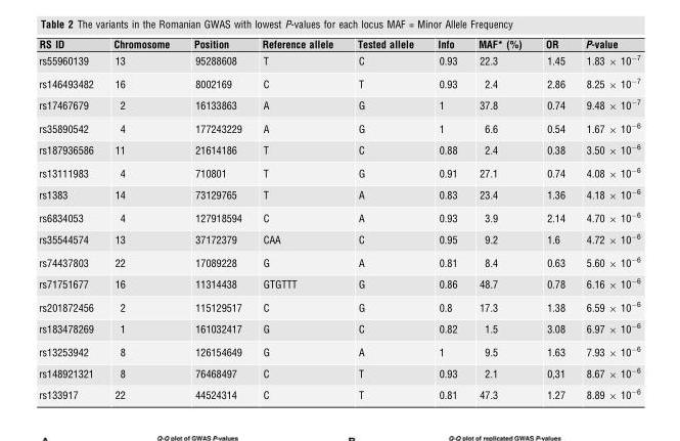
<table><thead><tr><td>RS ID</td><td>Chromosome</td><td>Position</td><td>Reference allele</td><td>Tested allele</td><td>Info</td><td>MAF* (%)</td><td>OR</td><td>P-value</td></tr></thead><tbody><tr><td>rs55960139</td><td>13</td><td>95288608</td><td>T</td><td>C</td><td>0.93</td><td>22.3</td><td>1.45</td><td>1.83 × 10<sup>−7</sup></td></tr><tr><td>rs146493482</td><td>16</td><td>8002169</td><td>C</td><td>T</td><td>0.93</td><td>2.4</td><td>2.86</td><td>8.25 × 10<sup>−7</sup></td></tr><tr><td>rs17467679</td><td>2</td><td>16133863</td><td>A</td><td>G</td><td>1</td><td>37.8</td><td>0.74</td><td>9.48 × 10<sup>−7</sup></td></tr><tr><td>rs35890542</td><td>4</td><td>177243229</td><td>A</td><td>G</td><td>1</td><td>6.6</td><td>0.54</td><td>1.67 × 10<sup>−6</sup></td></tr><tr><td>rs187936586</td><td>11</td><td>21614186</td><td>T</td><td>C</td><td>0.88</td><td>2.4</td><td>0.38</td><td>3.50 × 10<sup>−6</sup></td></tr><tr><td>rs13111983</td><td>4</td><td>710801</td><td>T</td><td>G</td><td>0.91</td><td>27.1</td><td>0.74</td><td>4.08 × 10<sup>−6</sup></td></tr><tr><td>rs1383</td><td>14</td><td>73129765</td><td>T</td><td>A</td><td>0.83</td><td>23.4</td><td>1.36</td><td>4.18 × 10<sup>−6</sup></td></tr><tr><td>rs6834053</td><td>4</td><td>127918594</td><td>C</td><td>A</td><td>0.93</td><td>3.9</td><td>2.14</td><td>4.70 × 10<sup>−6</sup></td></tr><tr><td>rs35544574</td><td>13</td><td>37172379</td><td>CAA</td><td>C</td><td>0.95</td><td>9.2</td><td>1.6</td><td>4.72 × 10<sup>−6</sup></td></tr><tr><td>rs74437803</td><td>22</td><td>17089228</td><td>G</td><td>A</td><td>0.81</td><td>8.4</td><td>0.63</td><td>5.60 × 10<sup>−6</sup></td></tr><tr><td>rs71751677</td><td>16</td><td>11314438</td><td>GTGTTT</td><td>G</td><td>0.86</td><td>48.7</td><td>0.78</td><td>6.16 × 10<sup>−6</sup></td></tr><tr><td>rs201872456</td><td>2</td><td>115129517</td><td>C</td><td>G</td><td>0.8</td><td>17.3</td><td>1.38</td><td>6.59 × 10<sup>−6</sup></td></tr><tr><td>rs183478269</td><td>1</td><td>161032417</td><td>G</td><td>C</td><td>0.82</td><td>1.5</td><td>3.08</td><td>6.97 × 10<sup>−6</sup></td></tr><tr><td>rs13253942</td><td>8</td><td>126154649</td><td>G</td><td>A</td><td>1</td><td>9.5</td><td>1.63</td><td>7.93 × 10<sup>−6</sup></td></tr><tr><td>rs148921321</td><td>8</td><td>76468497</td><td>C</td><td>T</td><td>0.93</td><td>2.1</td><td>0,31</td><td>8.67 × 10<sup>−6</sup></td></tr><tr><td>rs133917</td><td>22</td><td>44524314</td><td>C</td><td>T</td><td>0.81</td><td>47.3</td><td>1.27</td><td>8.89 × 10<sup>−6</sup></td></tr></tbody></table>